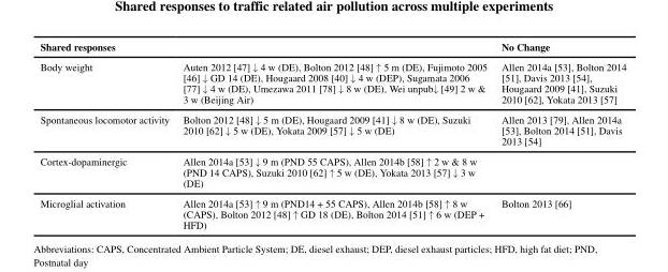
<table><thead><tr><td>Shared responses</td><td></td><td>No Change</td></tr></thead><tbody><tr><td>Body weight</td><td>Auten 2012 [47] ↓ 4 w (DE), Bolton 2012 [48] ↑ 5 m (DE), Fujimoto 2005 [46] ↓ GD 14 (DE), Hougaard 2008 [40] ↓ 4 w (DEP), Sugamata 2006 [77] ↓ 4 w (DE), Umezawa 2011 [78] ↓ 8 w (DE), Wei unpub↓ [49] 2 w &amp; 3 w (Beijing Air)</td><td>Allen 2014a [53], Bolton 2014 [51], Davis 2013 [54], Hougaard 2009 [41], Suzuki 2010 [62], Yokata 2013 [57]</td></tr><tr><td>Spontaneous locomotor activity</td><td>Bolton 2012 [48] ↓ 5 m (DE), Hougaard 2009 [41] ↓ 8 w (DE), Suzuki 2010 [62] ↓ 5 w (DE), Yokata 2009 [57] ↓ 5 w (DE)</td><td>Allen 2013 [79], Allen 2014a [53], Bolton 2014 [51], Davis 2013 [54]</td></tr><tr><td>Cortex-dopaminergic</td><td>Allen 2014a [53] ↓ 9 m (PND 55 CAPS), Allen 2014b [58] ↑ 2 w &amp; 8 w (PND 14 CAPS), Suzuki 2010 [62] ↑ 5 w (DE), Yokata 2013 [57] ↓ 3 w (DE)</td><td></td></tr><tr><td>Microglial activation</td><td>Allen 2014a [53] ↑ 9 m (PND14 + 55 CAPS), Allen 2014b [58] ↑ 8 w (CAPS), Bolton 2012 [48] ↑ GD 18 (DE), Bolton 2014 [51] ↑ 6 w (DEP + HFD)</td><td>Bolton 2013 [66]</td></tr></tbody></table>